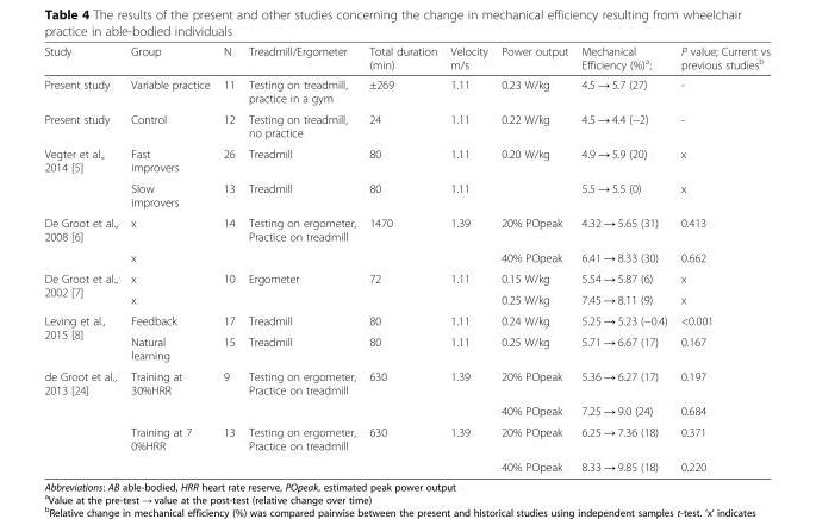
<table><thead><tr><td>Study</td><td>Group</td><td>N</td><td>Treadmill/Ergometer</td><td>Total duration (min)</td><td>Velocity m/s</td><td>Power output</td><td>Mechanical Efficiency (%)<sup>a</sup>;</td><td>P value; Current vs previous studies<sup>b</sup></td></tr></thead><tbody><tr><td>Present study</td><td>Variable practice</td><td>11</td><td>Testing on treadmill, practice in a gym</td><td>±269</td><td>1.11</td><td>0.23 W/kg</td><td>4.5 → 5.7 (27)</td><td>-</td></tr><tr><td>Present study</td><td>Control</td><td>12</td><td>Testing on treadmill, no practice</td><td>24</td><td>1.11</td><td>0.22 W/kg</td><td>4.5 → 4.4 (−2)</td><td>-</td></tr><tr><td rowspan="2">Vegter et al., 2014 [5]</td><td>Fast improvers</td><td>26</td><td>Treadmill</td><td>80</td><td>1.11</td><td>0.20 W/kg</td><td>4.9 → 5.9 (20)</td><td>x</td></tr><tr><td>Slow improvers</td><td>13</td><td>Treadmill</td><td>80</td><td>1.11</td><td></td><td>5.5 → 5.5 (0)</td><td>x</td></tr><tr><td rowspan="2">De Groot et al., 2008 [6]</td><td>x</td><td>14</td><td>Testing on ergometer, Practice on treadmill</td><td>1470</td><td>1.39</td><td>20% POpeak</td><td>4.32 → 5.65 (31)</td><td>0.413</td></tr><tr><td>x</td><td></td><td></td><td></td><td></td><td>40% POpeak</td><td>6.41 → 8.33 (30)</td><td>0.662</td></tr><tr><td rowspan="2">De Groot et al., 2002 [7]</td><td>x</td><td>10</td><td>Ergometer</td><td>72</td><td>1.11</td><td>0.15 W/kg</td><td>5.54 → 5.87 (6)</td><td>x</td></tr><tr><td>x</td><td></td><td></td><td></td><td></td><td>0.25 W/kg</td><td>7.45 → 8.11 (9)</td><td>x</td></tr><tr><td rowspan="2">Leving et al., 2015 [8]</td><td>Feedback</td><td>17</td><td>Treadmill</td><td>80</td><td>1.11</td><td>0.24 W/kg</td><td>5.25 → 5.23 (−0.4)</td><td>&lt;0.001</td></tr><tr><td>Natural learning</td><td>15</td><td>Treadmill</td><td>80</td><td>1.11</td><td>0.25 W/kg</td><td>5.71 → 6.67 (17)</td><td>0.167</td></tr><tr><td rowspan="4">de Groot et al., 2013 [24]</td><td>Training at 30%HRR</td><td>9</td><td>Testing on ergometer, Practice on treadmill</td><td>630</td><td>1.39</td><td>20% POpeak</td><td>5.36 → 6.27 (17)</td><td>0.197</td></tr><tr><td></td><td></td><td></td><td></td><td></td><td>40% POpeak</td><td>7.25 → 9.0 (24)</td><td>0.684</td></tr><tr><td>Training at 7 0%HRR</td><td>13</td><td>Testing on ergometer, Practice on treadmill</td><td>630</td><td>1.39</td><td>20% POpeak</td><td>6.25 → 7.36 (18)</td><td>0.371</td></tr><tr><td></td><td></td><td></td><td></td><td></td><td>40% POpeak</td><td>8.33 → 9.85 (18)</td><td>0.220</td></tr></tbody></table>